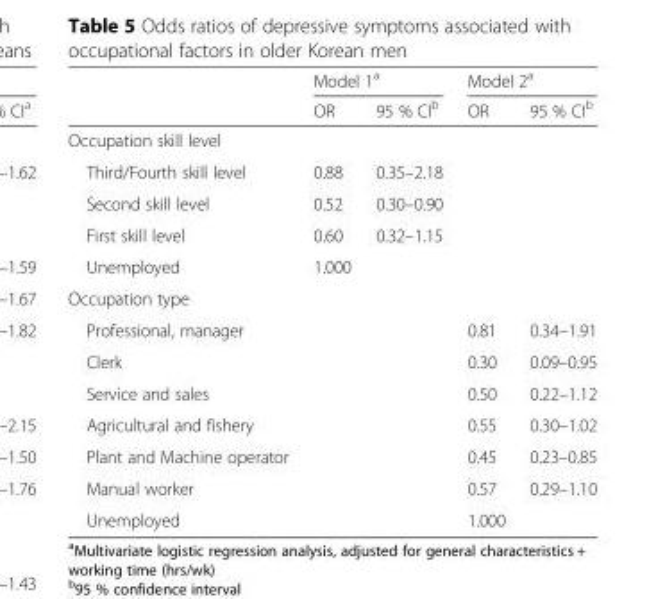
<table><thead><tr><td rowspan="2"></td><td colspan="2">Model 1<sup>a</sup></td><td colspan="2">Model 2<sup>a</sup></td></tr><tr><td>OR</td><td>95 % CI<sup>b</sup></td><td>OR</td><td>95 % CI<sup>b</sup></td></tr></thead><tbody><tr><td colspan="5">Occupation skill level</td></tr><tr><td>Third/Fourth skill level</td><td>0.88</td><td>0.35–2.18</td><td></td><td></td></tr><tr><td>Second skill level</td><td>0.52</td><td>0.30–0.90</td><td></td><td></td></tr><tr><td>First skill level</td><td>0.60</td><td>0.32–1.15</td><td></td><td></td></tr><tr><td>Unemployed</td><td>1.000</td><td></td><td></td><td></td></tr><tr><td colspan="5">Occupation type</td></tr><tr><td>Professional, manager</td><td></td><td></td><td>0.81</td><td>0.34–1.91</td></tr><tr><td>Clerk</td><td></td><td></td><td>0.30</td><td>0.09–0.95</td></tr><tr><td>Service and sales</td><td></td><td></td><td>0.50</td><td>0.22–1.12</td></tr><tr><td>Agricultural and fishery</td><td></td><td></td><td>0.55</td><td>0.30–1.02</td></tr><tr><td>Plant and Machine operator</td><td></td><td></td><td>0.45</td><td>0.23–0.85</td></tr><tr><td>Manual worker</td><td></td><td></td><td>0.57</td><td>0.29–1.10</td></tr><tr><td>Unemployed</td><td></td><td></td><td>1.000</td><td></td></tr></tbody></table>